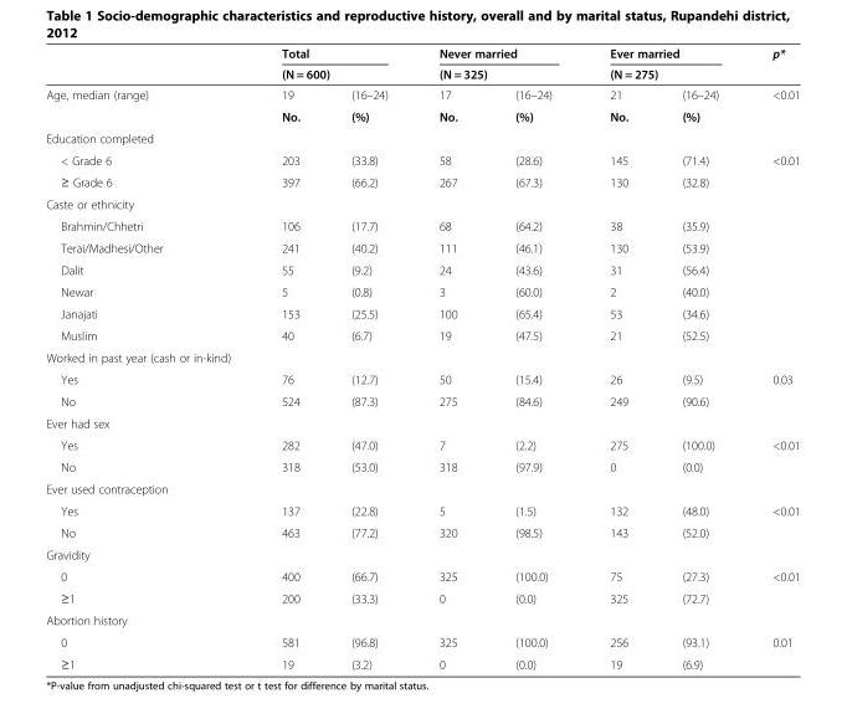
<table><thead><tr><td rowspan="3">Age, median (range)</td><td rowspan="2" colspan="2">Total (N = 600)</td><td rowspan="2" colspan="2">Never married (N = 325)</td><td rowspan="2" colspan="2">Ever married (N = 275)</td><td rowspan="3">p* &lt;0.01</td></tr><tr></tr><tr><td>19</td><td>(16–24)</td><td>17</td><td>(16–24)</td><td>21</td><td>(16–24)</td></tr></thead><tbody><tr><td></td><td>No.</td><td>(%)</td><td>No.</td><td>(%)</td><td>No.</td><td>(%)</td><td></td></tr><tr><td colspan="8">Education completed</td></tr><tr><td>&lt; Grade 6</td><td>203</td><td>(33.8)</td><td>58</td><td>(28.6)</td><td>145</td><td>(71.4)</td><td>&lt;0.01</td></tr><tr><td>≥ Grade 6</td><td>397</td><td>(66.2)</td><td>267</td><td>(67.3)</td><td>130</td><td>(32.8)</td><td></td></tr><tr><td colspan="8">Caste or ethnicity</td></tr><tr><td>Brahmin/Chhetri</td><td>106</td><td>(17.7)</td><td>68</td><td>(64.2)</td><td>38</td><td>(35.9)</td><td></td></tr><tr><td>Terai/Madhesi/Other</td><td>241</td><td>(40.2)</td><td>111</td><td>(46.1)</td><td>130</td><td>(53.9)</td><td></td></tr><tr><td>Dalit</td><td>55</td><td>(9.2)</td><td>24</td><td>(43.6)</td><td>31</td><td>(56.4)</td><td></td></tr><tr><td>Newar</td><td>5</td><td>(0.8)</td><td>3</td><td>(60.0)</td><td>2</td><td>(40.0)</td><td></td></tr><tr><td>Janajati</td><td>153</td><td>(25.5)</td><td>100</td><td>(65.4)</td><td>53</td><td>(34.6)</td><td></td></tr><tr><td>Muslim</td><td>40</td><td>(6.7)</td><td>19</td><td>(47.5)</td><td>21</td><td>(52.5)</td><td></td></tr><tr><td colspan="8">Worked in past year (cash or in-kind)</td></tr><tr><td>Yes</td><td>76</td><td>(12.7)</td><td>50</td><td>(15.4)</td><td>26</td><td>(9.5)</td><td>0.03</td></tr><tr><td>No</td><td>524</td><td>(87.3)</td><td>275</td><td>(84.6)</td><td>249</td><td>(90.6)</td><td></td></tr><tr><td colspan="8">Ever had sex</td></tr><tr><td>Yes</td><td>282</td><td>(47.0)</td><td>7</td><td>(2.2)</td><td>275</td><td>(100.0)</td><td>&lt;0.01</td></tr><tr><td>No</td><td>318</td><td>(53.0)</td><td>318</td><td>(97.9)</td><td>0</td><td>(0.0)</td><td></td></tr><tr><td colspan="8">Ever used contraception</td></tr><tr><td>Yes</td><td>137</td><td>(22.8)</td><td>5</td><td>(1.5)</td><td>132</td><td>(48.0)</td><td>&lt;0.01</td></tr><tr><td>No</td><td>463</td><td>(77.2)</td><td>320</td><td>(98.5)</td><td>143</td><td>(52.0)</td><td></td></tr><tr><td colspan="8">Gravidity</td></tr><tr><td>0</td><td>400</td><td>(66.7)</td><td>325</td><td>(100.0)</td><td>75</td><td>(27.3)</td><td>&lt;0.01</td></tr><tr><td>≥1</td><td>200</td><td>(33.3)</td><td>0</td><td>(0.0)</td><td>325</td><td>(72.7)</td><td></td></tr><tr><td colspan="8">Abortion history</td></tr><tr><td>0</td><td>581</td><td>(96.8)</td><td>325</td><td>(100.0)</td><td>256</td><td>(93.1)</td><td>0.01</td></tr><tr><td>≥1</td><td>19</td><td>(3.2)</td><td>0</td><td>(0.0)</td><td>19</td><td>(6.9)</td><td></td></tr></tbody></table>